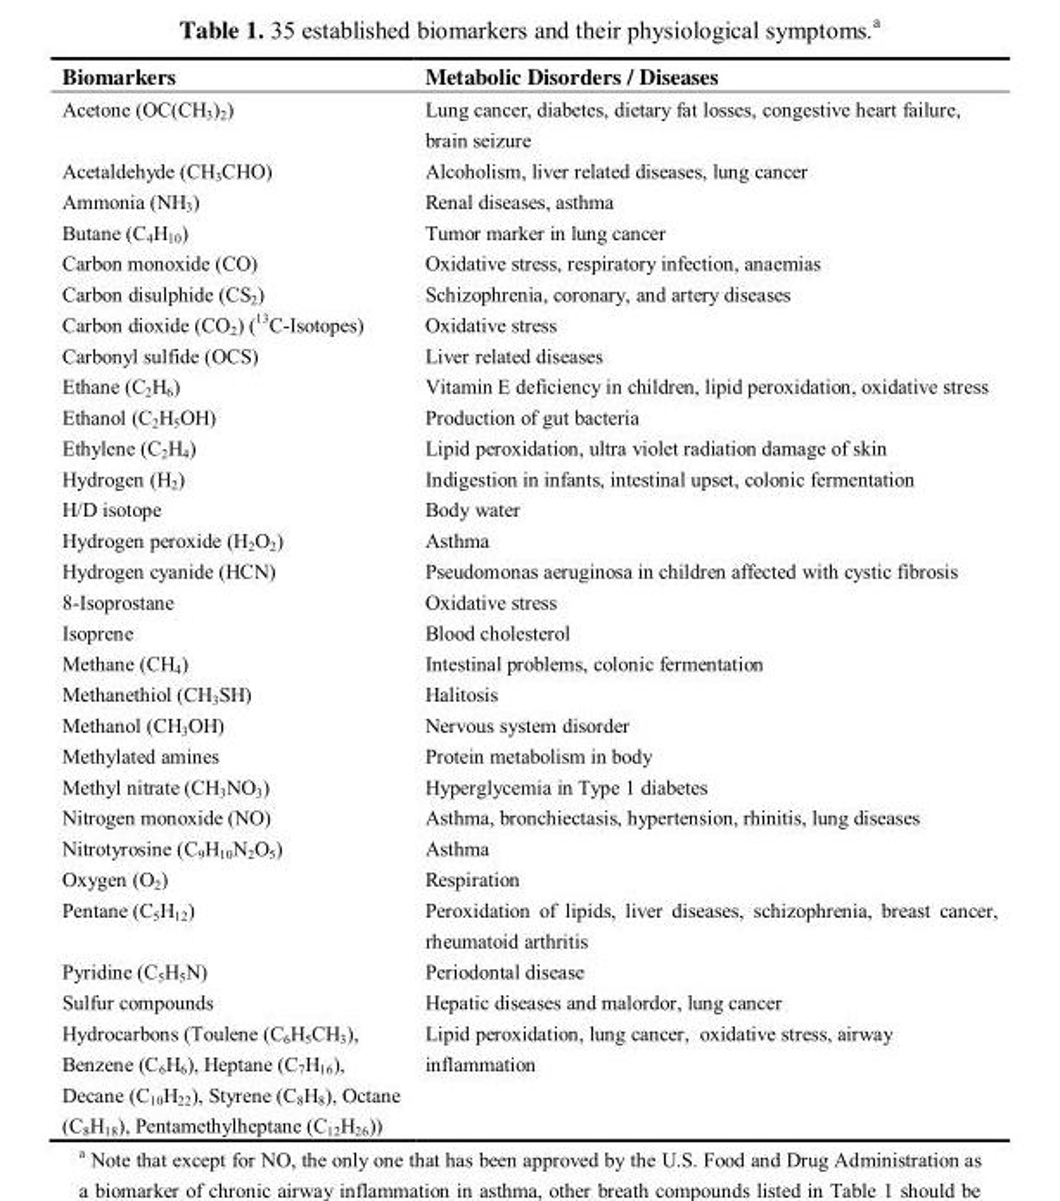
<table><thead><tr><td>Biomarkers</td><td>Metabolic Disorders / Diseases</td></tr></thead><tbody><tr><td>Acetone (OC(CH<sub>3</sub>)<sub>2</sub>)</td><td>Lung cancer, diabetes, dietary fat losses, congestive heart failure, brain seizure</td></tr><tr><td>Acetaldehyde (CH<sub>3</sub>CHO)</td><td>Alcoholism, liver related diseases, lung cancer</td></tr><tr><td>Ammonia (NH<sub>3</sub>)</td><td>Renal diseases, asthma</td></tr><tr><td>Butane (C<sub>4</sub>H<sub>10</sub>)</td><td>Tumor marker in lung cancer</td></tr><tr><td>Carbon monoxide (CO)</td><td>Oxidative stress, respiratory infection, anaemias</td></tr><tr><td>Carbon disulphide (CS<sub>2</sub>)</td><td>Schizophrenia, coronary, and artery diseases</td></tr><tr><td>Carbon dioxide (CO<sub>2</sub>) (<sup>13</sup>C-Isotopes)</td><td>Oxidative stress</td></tr><tr><td>Carbonyl sulfide (OCS)</td><td>Liver related diseases</td></tr><tr><td>Ethane (C<sub>2</sub>H<sub>6</sub>)</td><td>Vitamin E deficiency in children, lipid peroxidation, oxidative stress</td></tr><tr><td>Ethanol (C<sub>2</sub>H<sub>5</sub>OH)</td><td>Production of gut bacteria</td></tr><tr><td>Ethylene (C<sub>2</sub>H<sub>4</sub>)</td><td>Lipid peroxidation, ultra violet radiation damage of skin</td></tr><tr><td>Hydrogen (H<sub>2</sub>)</td><td>Indigestion in infants, intestinal upset, colonic fermentation</td></tr><tr><td>H/D isotope</td><td>Body water</td></tr><tr><td>Hydrogen peroxide (H<sub>2</sub>O<sub>2</sub>)</td><td>Asthma</td></tr><tr><td>Hydrogen cyanide (HCN)</td><td>Pseudomonas aeruginosa in children affected with cystic fibrosis</td></tr><tr><td>8-Isoprostane</td><td>Oxidative stress</td></tr><tr><td>Isoprene</td><td>Blood cholesterol</td></tr><tr><td>Methane (CH<sub>4</sub>)</td><td>Intestinal problems, colonic fermentation</td></tr><tr><td>Methanethiol (CH<sub>3</sub>SH)</td><td>Halitosis</td></tr><tr><td>Methanol (CH<sub>3</sub>OH)</td><td>Nervous system disorder</td></tr><tr><td>Methylated amines</td><td>Protein metabolism in body</td></tr><tr><td>Methyl nitrate (CH<sub>3</sub>NO<sub>3</sub>)</td><td>Hyperglycemia in Type 1 diabetes</td></tr><tr><td>Nitrogen monoxide (NO)</td><td>Asthma, bronchiectasis, hypertension, rhinitis, lung diseases</td></tr><tr><td>Nitrotyrosine (C<sub>9</sub>H<sub>10</sub>N<sub>2</sub>O<sub>5</sub>)</td><td>Asthma</td></tr><tr><td>Oxygen (O<sub>2</sub>)</td><td>Respiration</td></tr><tr><td>Pentane (C<sub>5</sub>H<sub>12</sub>)</td><td>Peroxidation of lipids, liver diseases, schizophrenia, breast cancer, rheumatoid arthritis</td></tr><tr><td>Pyridine (C<sub>5</sub>H<sub>5</sub>N)</td><td>Periodontal disease</td></tr><tr><td>Sulfur compounds</td><td>Hepatic diseases and malordor, lung cancer</td></tr><tr><td>Hydrocarbons (Toulene (C<sub>6</sub>H<sub>5</sub>CH<sub>3</sub>), Benzene (C<sub>6</sub>H<sub>6</sub>), Heptane (C<sub>7</sub>H<sub>16</sub>), Decane (C<sub>10</sub>H<sub>22</sub>), Styrene (C<sub>8</sub>H<sub>8</sub>), Octane (C<sub>8</sub>H<sub>18</sub>), Pentamethylheptane (C<sub>12</sub>H<sub>26</sub>))</td><td>Lipid peroxidation, lung cancer, oxidative stress, airway inflammation</td></tr></tbody></table>